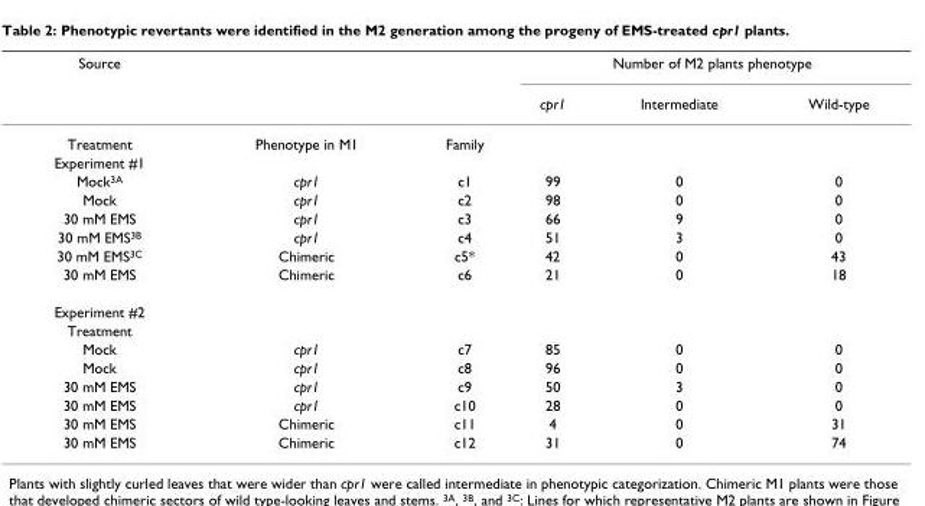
<table><thead><tr><td rowspan="2">Source</td><td rowspan="2"></td><td rowspan="2"></td><td colspan="3">Number of M2 plants phenotype</td></tr><tr><td>cpr1</td><td>Intermediate</td><td>Wild-type</td></tr></thead><tbody><tr><td>Treatment</td><td>Phenotype in M1</td><td>Family</td><td></td><td></td><td></td></tr><tr><td colspan="6">Experiment #1</td></tr><tr><td>Mock<sup>3A</sup></td><td>cpr1</td><td>c1</td><td>99</td><td>0</td><td>0</td></tr><tr><td>Mock</td><td>cpr1</td><td>c2</td><td>98</td><td>0</td><td>0</td></tr><tr><td>30 mM EMS</td><td>cpr1</td><td>c3</td><td>66</td><td>9</td><td>0</td></tr><tr><td>30 mM EMS<sup>3B</sup></td><td>cpr1</td><td>c4</td><td>51</td><td>3</td><td>0</td></tr><tr><td>30 mM EMS<sup>3C</sup></td><td>Chimeric</td><td>c5*</td><td>42</td><td>0</td><td>43</td></tr><tr><td>30 mM EMS</td><td>Chimeric</td><td>c6</td><td>21</td><td>0</td><td>18</td></tr><tr><td colspan="6">Experiment #2</td></tr><tr><td colspan="6">Treatment</td></tr><tr><td>Mock</td><td>cpr1</td><td>c7</td><td>85</td><td>0</td><td>0</td></tr><tr><td>Mock</td><td>cpr1</td><td>c8</td><td>96</td><td>0</td><td>0</td></tr><tr><td>30 mM EMS</td><td>cpr1</td><td>c9</td><td>50</td><td>3</td><td>0</td></tr><tr><td>30 mM EMS</td><td>cpr1</td><td>c10</td><td>28</td><td>0</td><td>0</td></tr><tr><td>30 mM EMS</td><td>Chimeric</td><td>c11</td><td>4</td><td>0</td><td>31</td></tr><tr><td>30 mM EMS</td><td>Chimeric</td><td>c12</td><td>31</td><td>0</td><td>74</td></tr></tbody></table>